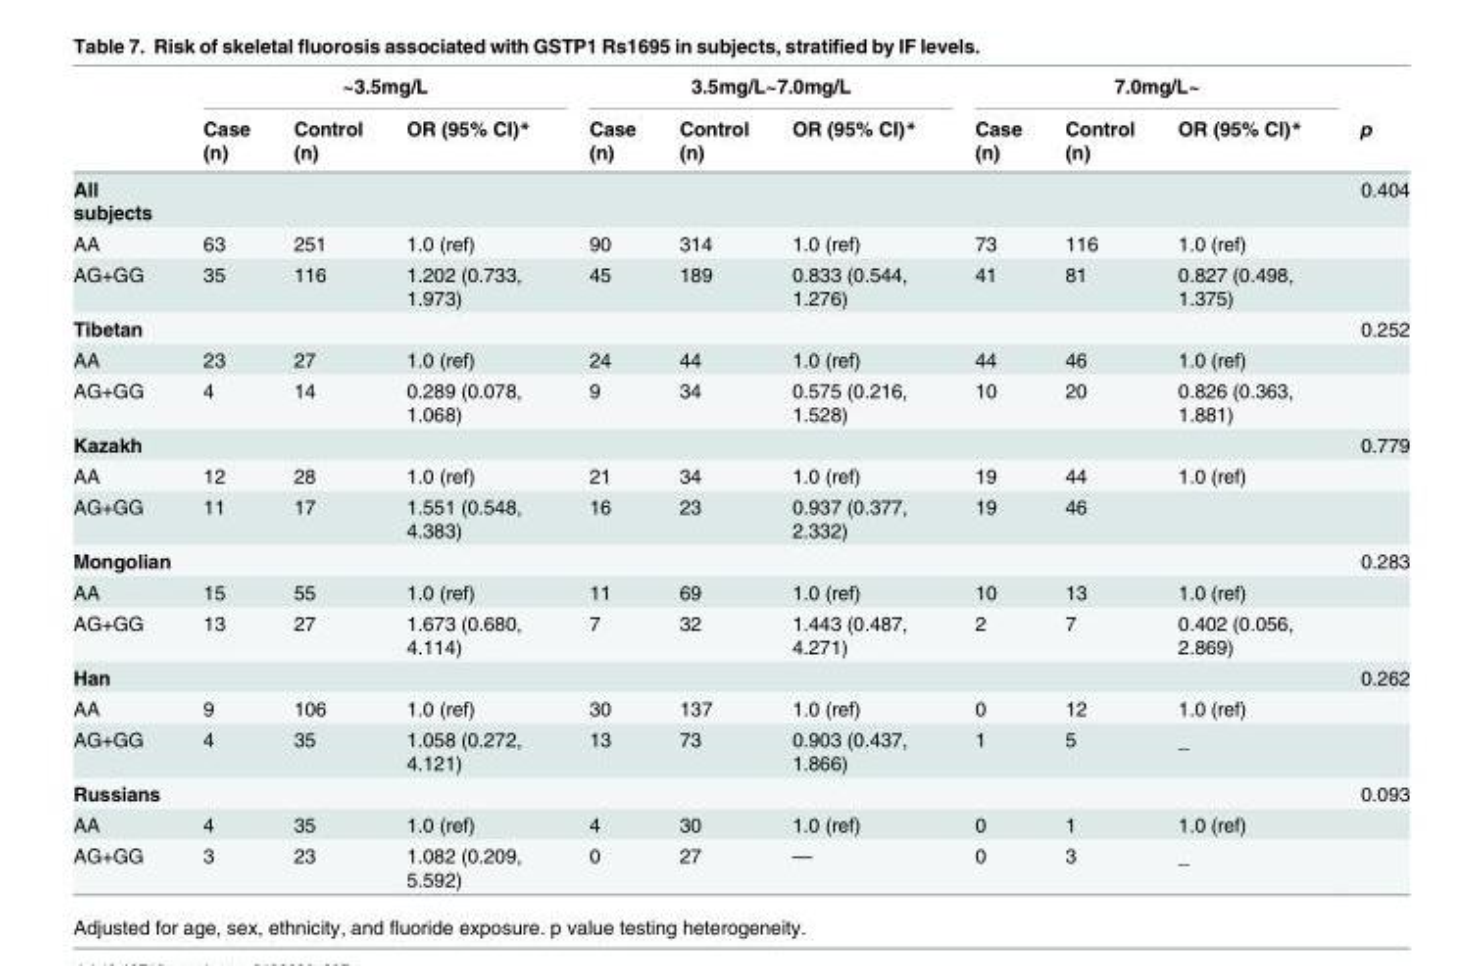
<table><thead><tr><td rowspan="2"></td><td colspan="3">~3.5mg/L</td><td colspan="3">3.5mg/L~7.0mg/L</td><td colspan="3">7.0mg/L~</td><td rowspan="2">p</td></tr><tr><td>Case (n)</td><td>Control (n)</td><td>OR (95% CI)*</td><td>Case (n)</td><td>Control (n)</td><td>OR (95% CI)*</td><td>Case (n)</td><td>Control (n)</td><td>OR (95% CI)*</td></tr></thead><tbody><tr><td>All subjects</td><td></td><td></td><td></td><td></td><td></td><td></td><td></td><td></td><td></td><td>0.404</td></tr><tr><td>AA</td><td>63</td><td>251</td><td>1.0 (ref)</td><td>90</td><td>314</td><td>1.0 (ref)</td><td>73</td><td>116</td><td>1.0 (ref)</td><td></td></tr><tr><td>AG+GG</td><td>35</td><td>116</td><td>1.202 (0.733, 1.973)</td><td>45</td><td>189</td><td>0.833 (0.544, 1.276)</td><td>41</td><td>81</td><td>0.827 (0.498, 1.375)</td><td></td></tr><tr><td>Tibetan</td><td></td><td></td><td></td><td></td><td></td><td></td><td></td><td></td><td></td><td>0.252</td></tr><tr><td>AA</td><td>23</td><td>27</td><td>1.0 (ref)</td><td>24</td><td>44</td><td>1.0 (ref)</td><td>44</td><td>46</td><td>1.0 (ref)</td><td></td></tr><tr><td>AG+GG</td><td>4</td><td>14</td><td>0.289 (0.078, 1.068)</td><td>9</td><td>34</td><td>0.575 (0.216, 1.528)</td><td>10</td><td>20</td><td>0.826 (0.363, 1.881)</td><td></td></tr><tr><td>Kazakh</td><td></td><td></td><td></td><td></td><td></td><td></td><td></td><td></td><td></td><td>0.779</td></tr><tr><td>AA</td><td>12</td><td>28</td><td>1.0 (ref)</td><td>21</td><td>34</td><td>1.0 (ref)</td><td>19</td><td>44</td><td>1.0 (ref)</td><td></td></tr><tr><td>AG+GG</td><td>11</td><td>17</td><td>1.551 (0.548, 4.383)</td><td>16</td><td>23</td><td>0.937 (0.377, 2.332)</td><td>19</td><td>46</td><td></td><td></td></tr><tr><td>Mongolian</td><td></td><td></td><td></td><td></td><td></td><td></td><td></td><td></td><td></td><td>0.283</td></tr><tr><td>AA</td><td>15</td><td>55</td><td>1.0 (ref)</td><td>11</td><td>69</td><td>1.0 (ref)</td><td>10</td><td>13</td><td>1.0 (ref)</td><td></td></tr><tr><td>AG+GG</td><td>13</td><td>27</td><td>1.673 (0.680, 4.114)</td><td>7</td><td>32</td><td>1.443 (0.487, 4.271)</td><td>2</td><td>7</td><td>0.402 (0.056, 2.869)</td><td></td></tr><tr><td>Han</td><td></td><td></td><td></td><td></td><td></td><td></td><td></td><td></td><td></td><td>0.262</td></tr><tr><td>AA</td><td>9</td><td>106</td><td>1.0 (ref)</td><td>30</td><td>137</td><td>1.0 (ref)</td><td>0</td><td>12</td><td>1.0 (ref)</td><td></td></tr><tr><td>AG+GG</td><td>4</td><td>35</td><td>1.058 (0.272, 4.121)</td><td>13</td><td>73</td><td>0.903 (0.437, 1.866)</td><td>1</td><td>5</td><td>_</td><td></td></tr><tr><td>Russians</td><td></td><td></td><td></td><td></td><td></td><td></td><td></td><td></td><td></td><td>0.093</td></tr><tr><td>AA</td><td>4</td><td>35</td><td>1.0 (ref)</td><td>4</td><td>30</td><td>1.0 (ref)</td><td>0</td><td>1</td><td>1.0 (ref)</td><td></td></tr><tr><td>AG+GG</td><td>3</td><td>23</td><td>1.082 (0.209, 5.592)</td><td>0</td><td>27</td><td>—</td><td>0</td><td>3</td><td>_</td><td></td></tr></tbody></table>